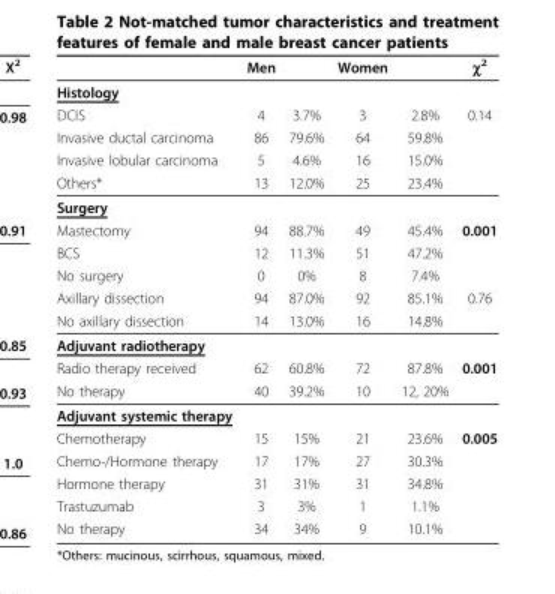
<table><thead><tr><td></td><td>Men</td><td></td><td>Women</td><td></td><td>χ<sup>2</sup></td></tr></thead><tbody><tr><td colspan="6">Histology</td></tr><tr><td>DCIS</td><td>4</td><td>3.7%</td><td>3</td><td>2.8%</td><td>0.14</td></tr><tr><td>Invasive ductal carcinoma</td><td>86</td><td>79.6%</td><td>64</td><td>59.8%</td><td></td></tr><tr><td>Invasive lobular carcinoma</td><td>5</td><td>4.6%</td><td>16</td><td>15.0%</td><td></td></tr><tr><td>Others*</td><td>13</td><td>12.0%</td><td>25</td><td>23.4%</td><td></td></tr><tr><td colspan="6">Surgery</td></tr><tr><td>Mastectomy</td><td>94</td><td>88.7%</td><td>49</td><td>45.4%</td><td>0.001</td></tr><tr><td>BCS</td><td>12</td><td>11.3%</td><td>51</td><td>47.2%</td><td></td></tr><tr><td>No surgery</td><td>0</td><td>0%</td><td>8</td><td>7.4%</td><td></td></tr><tr><td>Axillary dissection</td><td>94</td><td>87.0%</td><td>92</td><td>85.1%</td><td>0.76</td></tr><tr><td>No axillary dissection</td><td>14</td><td>13.0%</td><td>16</td><td>14.8%</td><td></td></tr><tr><td colspan="6">Adjuvant radiotherapy</td></tr><tr><td>Radio therapy received</td><td>62</td><td>60.8%</td><td>72</td><td>87.8%</td><td>0.001</td></tr><tr><td>No therapy</td><td>40</td><td>39.2%</td><td>10</td><td>12, 20%</td><td></td></tr><tr><td colspan="6">Adjuvant systemic therapy</td></tr><tr><td>Chemotherapy</td><td>15</td><td>15%</td><td>21</td><td>23.6%</td><td>0.005</td></tr><tr><td>Chemo-/Hormone therapy</td><td>17</td><td>17%</td><td>27</td><td>30.3%</td><td></td></tr><tr><td>Hormone therapy</td><td>31</td><td>31%</td><td>31</td><td>34.8%</td><td></td></tr><tr><td>Trastuzumab</td><td>3</td><td>3%</td><td>1</td><td>1.1%</td><td></td></tr><tr><td>No therapy</td><td>34</td><td>34%</td><td>9</td><td>10.1%</td><td></td></tr></tbody></table>